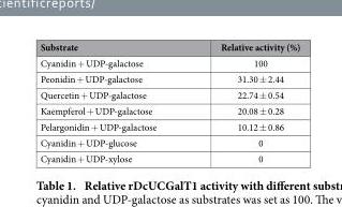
<table><thead><tr><td>Substrate</td><td>Relative activity (%)</td></tr></thead><tbody><tr><td>Cyanidin + UDP-galactose</td><td>100</td></tr><tr><td>Peonidin + UDP-galactose</td><td>31.30 ± 2.44</td></tr><tr><td>Quercetin + UDP-galactose</td><td>22.74 ± 0.54</td></tr><tr><td>Kaempferol + UDP-galactose</td><td>20.08 ± 0.28</td></tr><tr><td>Pelargonidin + UDP-galactose</td><td>10.12 ± 0.86</td></tr><tr><td>Cyanidin + UDP-glucose</td><td>0</td></tr><tr><td>Cyanidin + UDP-xylose</td><td>0</td></tr></tbody></table>